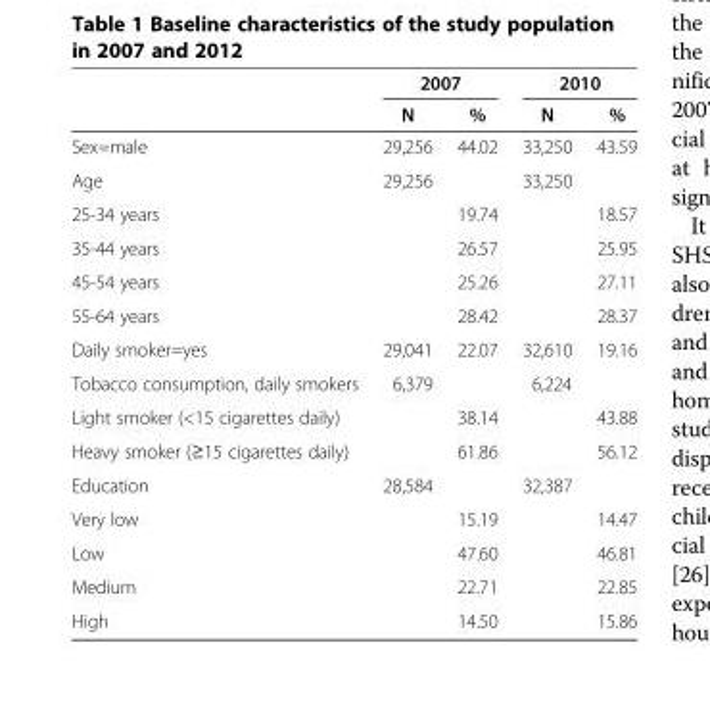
<table><thead><tr><td rowspan="2"></td><td colspan="2">2007</td><td colspan="2">2010</td></tr><tr><td>N</td><td>%</td><td>N</td><td>%</td></tr></thead><tbody><tr><td>Sex=male</td><td>29,256</td><td>44.02</td><td>33,250</td><td>43.59</td></tr><tr><td>Age</td><td>29,256</td><td></td><td>33,250</td><td></td></tr><tr><td>25-34 years</td><td></td><td>19.74</td><td></td><td>18.57</td></tr><tr><td>35-44 years</td><td></td><td>26.57</td><td></td><td>25.95</td></tr><tr><td>45-54 years</td><td></td><td>25.26</td><td></td><td>27.11</td></tr><tr><td>55-64 years</td><td></td><td>28.42</td><td></td><td>28.37</td></tr><tr><td>Daily smoker=yes</td><td>29,041</td><td>22.07</td><td>32,610</td><td>19.16</td></tr><tr><td>Tobacco consumption, daily smokers</td><td>6,379</td><td></td><td>6,224</td><td></td></tr><tr><td>Light smoker (&lt;15 cigarettes daily)</td><td></td><td>38.14</td><td></td><td>43.88</td></tr><tr><td>Heavy smoker (≥15 cigarettes daily)</td><td></td><td>61.86</td><td></td><td>56.12</td></tr><tr><td>Education</td><td>28,584</td><td></td><td>32,387</td><td></td></tr><tr><td>Very low</td><td></td><td>15.19</td><td></td><td>14.47</td></tr><tr><td>Low</td><td></td><td>47.60</td><td></td><td>46.81</td></tr><tr><td>Medium</td><td></td><td>22.71</td><td></td><td>22.85</td></tr><tr><td>High</td><td></td><td>14.50</td><td></td><td>15.86</td></tr></tbody></table>